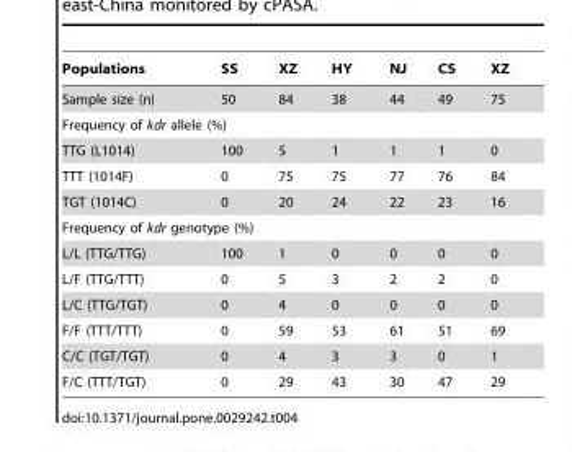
<table><thead><tr><td>Populations</td><td>SS</td><td>XZ</td><td>HY</td><td>NJ</td><td>CS</td><td>XZ</td></tr></thead><tbody><tr><td>Sample size (n)</td><td>50</td><td>84</td><td>38</td><td>44</td><td>49</td><td>75</td></tr><tr><td colspan="7">Frequency of kdr allele (%)</td></tr><tr><td>TTG (L1014)</td><td>100</td><td>5</td><td>1</td><td>1</td><td>1</td><td>0</td></tr><tr><td>TTT (1014F)</td><td>0</td><td>75</td><td>75</td><td>77</td><td>76</td><td>84</td></tr><tr><td>TGT (1014C)</td><td>0</td><td>20</td><td>24</td><td>22</td><td>23</td><td>16</td></tr><tr><td colspan="7">Frequency of kdr genotype (%)</td></tr><tr><td>L/L (TTG/TTG)</td><td>100</td><td>1</td><td>0</td><td>0</td><td>0</td><td>0</td></tr><tr><td>L/F (TTG/TTT)</td><td>0</td><td>5</td><td>3</td><td>2</td><td>2</td><td>0</td></tr><tr><td>L/C (TTG/TGT)</td><td>0</td><td>4</td><td>0</td><td>0</td><td>0</td><td>0</td></tr><tr><td>F/F (TTT/TTT)</td><td>0</td><td>59</td><td>53</td><td>61</td><td>51</td><td>69</td></tr><tr><td>C/C (TGT/TGT)</td><td>0</td><td>4</td><td>3</td><td>3</td><td>0</td><td>1</td></tr><tr><td>F/C (TTT/TGT)</td><td>0</td><td>29</td><td>43</td><td>30</td><td>47</td><td>29</td></tr></tbody></table>